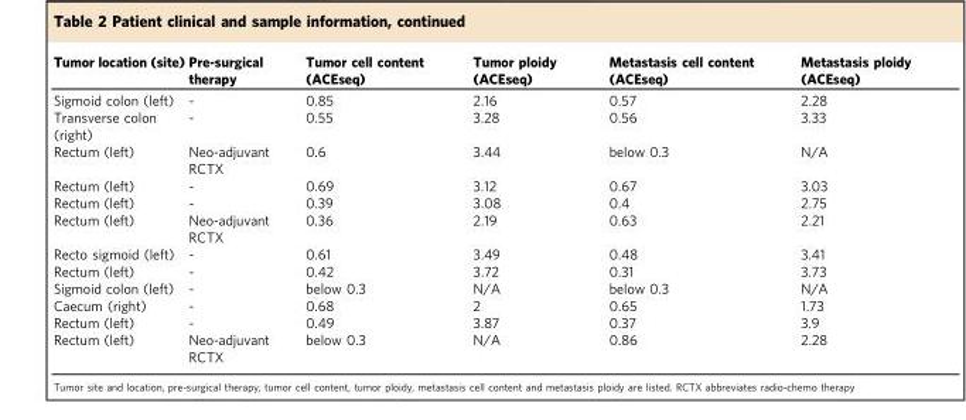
<table><thead><tr><td>Tumor location (site)</td><td>Pre-surgical therapy</td><td>Tumor cell content (ACEseq)</td><td>Tumor ploidy (ACEseq)</td><td>Metastasis cell content (ACEseq)</td><td>Metastasis ploidy (ACEseq)</td></tr></thead><tbody><tr><td>Sigmoid colon (left)</td><td>-</td><td>0.85</td><td>2.16</td><td>0.57</td><td>2.28</td></tr><tr><td>Transverse colon (right)</td><td>-</td><td>0.55</td><td>3.28</td><td>0.56</td><td>3.33</td></tr><tr><td>Rectum (left)</td><td>Neo-adjuvant RCTX</td><td>0.6</td><td>3.44</td><td>below 0.3</td><td>N/A</td></tr><tr><td>Rectum (left)</td><td>-</td><td>0.69</td><td>3.12</td><td>0.67</td><td>3.03</td></tr><tr><td>Rectum (left)</td><td>-</td><td>0.39</td><td>3.08</td><td>0.4</td><td>2.75</td></tr><tr><td>Rectum (left)</td><td>Neo-adjuvant RCTX</td><td>0.36</td><td>2.19</td><td>0.63</td><td>2.21</td></tr><tr><td>Recto sigmoid (left)</td><td>-</td><td>0.61</td><td>3.49</td><td>0.48</td><td>3.41</td></tr><tr><td>Rectum (left)</td><td>-</td><td>0.42</td><td>3.72</td><td>0.31</td><td>3.73</td></tr><tr><td>Sigmoid colon (left)</td><td>-</td><td>below 0.3</td><td>N/A</td><td>below 0.3</td><td>N/A</td></tr><tr><td>Caecum (right)</td><td>-</td><td>0.68</td><td>2</td><td>0.65</td><td>1.73</td></tr><tr><td>Rectum (left)</td><td>-</td><td>0.49</td><td>3.87</td><td>0.37</td><td>3.9</td></tr><tr><td>Rectum (left)</td><td>Neo-adjuvant RCTX</td><td>below 0.3</td><td>N/A</td><td>0.86</td><td>2.28</td></tr></tbody></table>